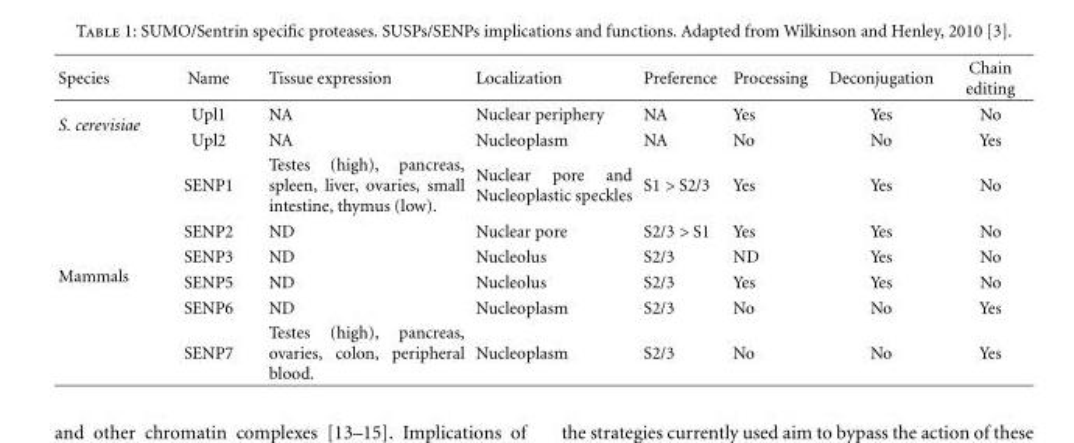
<table><thead><tr><td>Species</td><td>Name</td><td>Tissue expression</td><td>Localization</td><td>Preference</td><td>Processing</td><td>Deconjugation</td><td>Chain editing</td></tr></thead><tbody><tr><td rowspan="2">S. cerevisiae</td><td>Upl1</td><td>NA</td><td>Nuclear periphery</td><td>NA</td><td>Yes</td><td>Yes</td><td>No</td></tr><tr><td>Upl2</td><td>NA</td><td>Nucleoplasm</td><td>NA</td><td>No</td><td>No</td><td>Yes</td></tr><tr><td rowspan="6">Mammals</td><td>SENP1</td><td>Testes (high), pancreas, spleen, liver, ovaries, small intestine, thymus (low).</td><td>Nuclear pore and Nucleoplastic speckles</td><td>S1 &gt; S2/3</td><td>Yes</td><td>Yes</td><td>No</td></tr><tr><td>SENP2</td><td>ND</td><td>Nuclear pore</td><td>S2/3 &gt; S1</td><td>Yes</td><td>Yes</td><td>No</td></tr><tr><td>SENP3</td><td>ND</td><td>Nucleolus</td><td>S2/3</td><td>ND</td><td>Yes</td><td>No</td></tr><tr><td>SENP5</td><td>ND</td><td>Nucleolus</td><td>S2/3</td><td>Yes</td><td>Yes</td><td>No</td></tr><tr><td>SENP6</td><td>ND</td><td>Nucleoplasm</td><td>S2/3</td><td>No</td><td>No</td><td>Yes</td></tr><tr><td>SENP7</td><td>Testes (high), pancreas, ovaries, colon, peripheral blood.</td><td>Nucleoplasm</td><td>S2/3</td><td>No</td><td>No</td><td>Yes</td></tr></tbody></table>